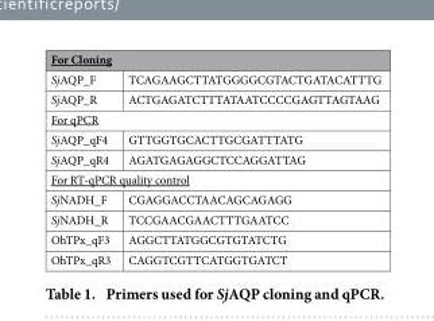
<table><thead><tr><td colspan="2">For Cloning</td></tr><tr><td>SjAQP_F</td><td>TCAGAAGCTTATGGGGCGTACTGATACATTTG</td></tr></thead><tbody><tr><td>SjAQP_R</td><td>ACTGAGATCTTTATAATCCCCGAGTTAGTAAG</td></tr><tr><td colspan="2">For qPCR</td></tr><tr><td>SjAQP_qF4</td><td>GTTGGTGCACTTGCGATTTATG</td></tr><tr><td>SjAQP_qR4</td><td>AGATGAGAGGCTCCAGGATTAG</td></tr><tr><td colspan="2">For RT-qPCR quality control</td></tr><tr><td>SjNADH_F</td><td>CGAGGACCTAACAGCAGAGG</td></tr><tr><td>SjNADH_R</td><td>TCCGAACGAACTTTGAATCC</td></tr><tr><td>OhTPx_qF3</td><td>AGGCTTATGGCGTGTATCTG</td></tr><tr><td>OhTPx_qR3</td><td>CAGGTCGTTCATGGTGATCT</td></tr></tbody></table>